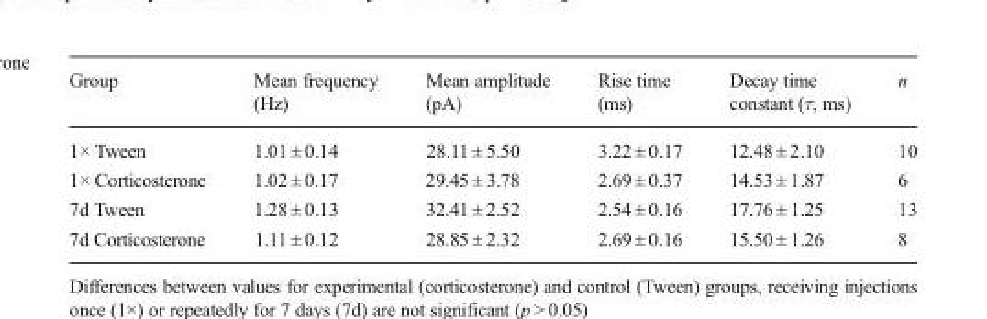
<table><thead><tr><td>Group</td><td>Mean frequency (Hz)</td><td>Mean amplitude (pA)</td><td>Rise time (ms)</td><td>Decay time constant (τ, ms)</td><td>n</td></tr></thead><tbody><tr><td>1× Tween</td><td>1.01 ± 0.14</td><td>28.11 ± 5.50</td><td>3.22 ± 0.17</td><td>12.48 ± 2.10</td><td>10</td></tr><tr><td>1× Corticosterone</td><td>1.02 ± 0.17</td><td>29.45 ± 3.78</td><td>2.69 ± 0.37</td><td>14.53 ± 1.87</td><td>6</td></tr><tr><td>7d Tween</td><td>1.28 ± 0.13</td><td>32.41 ± 2.52</td><td>2.54 ± 0.16</td><td>17.76 ± 1.25</td><td>13</td></tr><tr><td>7d Corticosterone</td><td>1.11 ± 0.12</td><td>28.85 ± 2.32</td><td>2.69 ± 0.16</td><td>15.50 ± 1.26</td><td>8</td></tr></tbody></table>